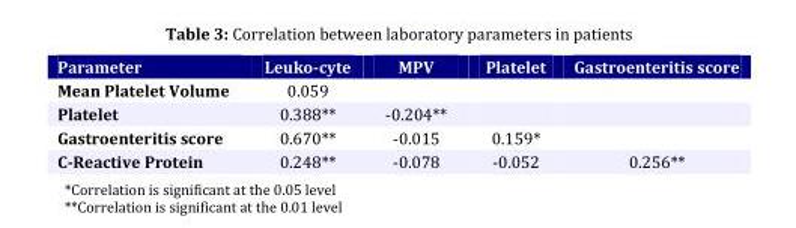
<table><thead><tr><td>Parameter</td><td>Leuko-cyte</td><td>MPV</td><td>Platelet</td><td>Gastroenteritis score</td></tr></thead><tbody><tr><td>Mean Platelet Volume</td><td>0.059</td><td></td><td></td><td></td></tr><tr><td>Platelet</td><td>0.388**</td><td>-0.204**</td><td></td><td></td></tr><tr><td>Gastroenteritis score</td><td>0.670**</td><td>-0.015</td><td>0.159*</td><td></td></tr><tr><td>C-Reactive Protein</td><td>0.248**</td><td>-0.078</td><td>-0.052</td><td>0.256**</td></tr></tbody></table>